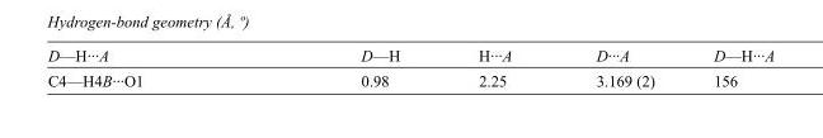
<table><tbody><tr><td>D—H···A</td><td>D—H</td><td>H···A</td><td>D···A</td><td>D—H···A</td></tr><tr><td>C4—H4B···O1</td><td>0.98</td><td>2.25</td><td>3.169 (2)</td><td>156</td></tr></tbody></table>